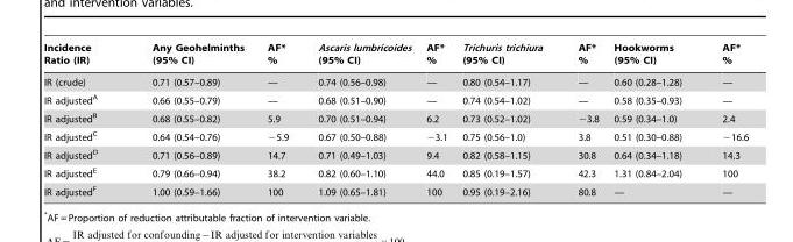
<table><thead><tr><td>Incidence Ratio (IR)</td><td>Any Geohelminths (95% CI)</td><td>AF* %</td><td>Ascaris lumbricoides (95% CI)</td><td>AF* %</td><td>Trichuris trichiura (95% CI)</td><td>AF* %</td><td>Hookworms (95% CI)</td><td>AF* %</td></tr></thead><tbody><tr><td>IR (crude)</td><td>0.71 (0.57–0.89)</td><td>—</td><td>0.74 (0.56–0.98)</td><td>—</td><td>0.80 (0.54–1.17)</td><td>—</td><td>0.60 (0.28–1.28)</td><td>—</td></tr><tr><td>IR adjusted<sup>A</sup></td><td>0.66 (0.55–0.79)</td><td>—</td><td>0.68 (0.51–0.90)</td><td>—</td><td>0.74 (0.54–1.02)</td><td>—</td><td>0.58 (0.35–0.93)</td><td>—</td></tr><tr><td>IR adjusted<sup>B</sup></td><td>0.68 (0.55–0.82)</td><td>5.9</td><td>0.70 (0.51–0.94)</td><td>6.2</td><td>0.73 (0.52–1.02)</td><td>−3.8</td><td>0.59 (0.34–1.0)</td><td>2.4</td></tr><tr><td>IR adjusted<sup>C</sup></td><td>0.64 (0.54–0.76)</td><td>−5.9</td><td>0.67 (0.50–0.88)</td><td>−3.1</td><td>0.75 (0.56–1.0)</td><td>3.8</td><td>0.51 (0.30–0.88)</td><td>−16.6</td></tr><tr><td>IR adjusted<sup>D</sup></td><td>0.71 (0.56–0.89)</td><td>14.7</td><td>0.71 (0.49–1.03)</td><td>9.4</td><td>0.82 (0.58–1.15)</td><td>30.8</td><td>0.64 (0.34–1.18)</td><td>14.3</td></tr><tr><td>IR adjusted<sup>E</sup></td><td>0.79 (0.66–0.94)</td><td>38.2</td><td>0.82 (0.60–1.10)</td><td>44.0</td><td>0.85 (0.19–1.57)</td><td>42.3</td><td>1.31 (0.84–2.04)</td><td>100</td></tr><tr><td>IR adjusted<sup>F</sup></td><td>1.00 (0.59–1.66)</td><td>100</td><td>1.09 (0.65–1.81)</td><td>100</td><td>0.95 (0.19–2.16)</td><td>80.8</td><td>—</td><td>—</td></tr></tbody></table>